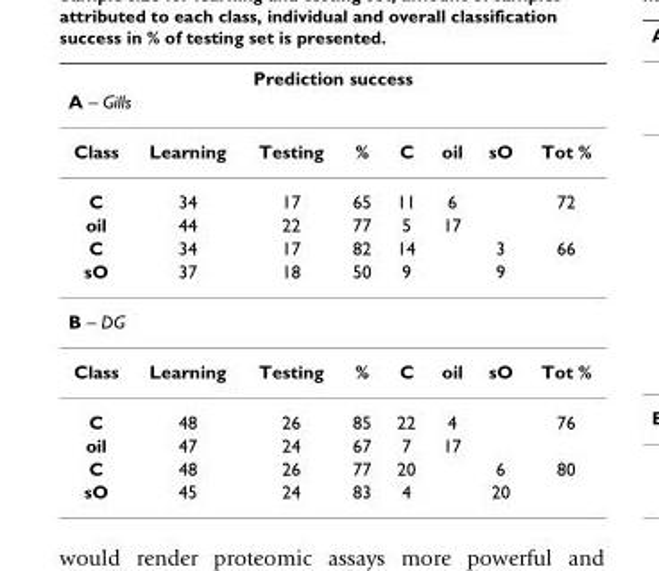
<table><thead><tr><td rowspan="2" colspan="8">Prediction success A – Gills</td></tr><tr></tr><tr><td>Class</td><td>Learning</td><td>Testing</td><td>%</td><td>C</td><td>oil</td><td>sO</td><td>Tot %</td></tr></thead><tbody><tr><td>C</td><td>34</td><td>17</td><td>65</td><td>11</td><td>6</td><td></td><td>72</td></tr><tr><td>oil</td><td>44</td><td>22</td><td>77</td><td>5</td><td>17</td><td></td><td></td></tr><tr><td>C</td><td>34</td><td>17</td><td>82</td><td>14</td><td></td><td>3</td><td>66</td></tr><tr><td>sO</td><td>37</td><td>18</td><td>50</td><td>9</td><td></td><td>9</td><td></td></tr><tr><td colspan="8">B – DG</td></tr><tr><td>Class</td><td>Learning</td><td>Testing</td><td>%</td><td>C</td><td>oil</td><td>sO</td><td>Tot %</td></tr><tr><td>C</td><td>48</td><td>26</td><td>85</td><td>22</td><td>4</td><td></td><td>76</td></tr><tr><td>oil</td><td>47</td><td>24</td><td>67</td><td>7</td><td>17</td><td></td><td></td></tr><tr><td>C</td><td>48</td><td>26</td><td>77</td><td>20</td><td></td><td>6</td><td>80</td></tr><tr><td>sO</td><td>45</td><td>24</td><td>83</td><td>4</td><td></td><td>20</td><td></td></tr></tbody></table>